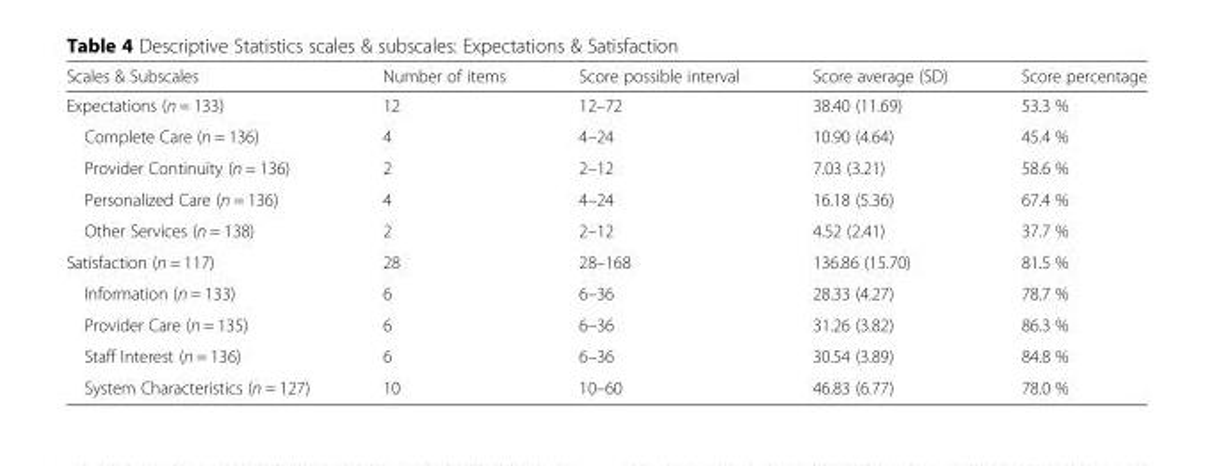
<table><thead><tr><td>Scales &amp; Subscales</td><td>Number of items</td><td>Score possible interval</td><td>Score average (SD)</td><td>Score percentage</td></tr></thead><tbody><tr><td>Expectations (n = 133)</td><td>12</td><td>12–72</td><td>38.40 (11.69)</td><td>53.3 %</td></tr><tr><td>Complete Care (n = 136)</td><td>4</td><td>4–24</td><td>10.90 (4.64)</td><td>45.4 %</td></tr><tr><td>Provider Continuïty (n = 136)</td><td>2</td><td>2–12</td><td>7.03 (3.21)</td><td>58.6 %</td></tr><tr><td>Personalized Care (n = 136)</td><td>4</td><td>4–24</td><td>16.18 (5.36)</td><td>67.4 %</td></tr><tr><td>Other Services (n = 138)</td><td>2</td><td>2–12</td><td>4.52 (2.41)</td><td>37.7 %</td></tr><tr><td>Satisfaction (n = 117)</td><td>28</td><td>28–168</td><td>136.86 (15.70)</td><td>81.5 %</td></tr><tr><td>Information (n = 133)</td><td>6</td><td>6–36</td><td>28.33 (4.27)</td><td>78.7 %</td></tr><tr><td>Provider Care (n = 135)</td><td>6</td><td>6–36</td><td>31.26 (3.82)</td><td>86.3 %</td></tr><tr><td>Staff Interest (n = 136)</td><td>6</td><td>6–36</td><td>30.54 (3.89)</td><td>84.8 %</td></tr><tr><td>System Characteristics (n = 127)</td><td>10</td><td>10–60</td><td>46.83 (6.77)</td><td>78.0 %</td></tr></tbody></table>